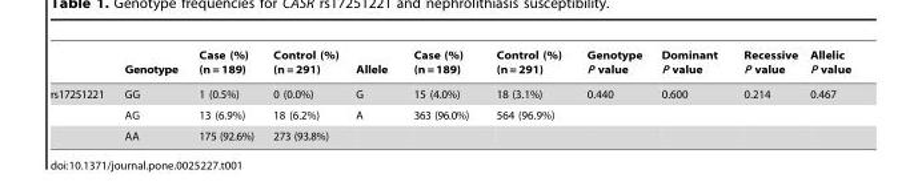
<table><thead><tr><td></td><td>Genotype</td><td>Case (%) (n = 189)</td><td>Control (%) (n = 291)</td><td>Allele</td><td>Case (%) (n = 189)</td><td>Control (%) (n = 291)</td><td>Genotype P value</td><td>Dominant P value</td><td>Recessive P value</td><td>Allelic P value</td></tr></thead><tbody><tr><td rowspan="3">rs17251221</td><td>GG</td><td>1 (0.5%)</td><td>0 (0.0%)</td><td>G</td><td>15 (4.0%)</td><td>18 (3.1%)</td><td>0.440</td><td>0.600</td><td>0.214</td><td>0.467</td></tr><tr><td>AG</td><td>13 (6.9%)</td><td>18 (6.2%)</td><td>A</td><td>363 (96.0%)</td><td>564 (96.9%)</td><td></td><td></td><td></td><td></td></tr><tr><td>AA</td><td>175 (92.6%)</td><td>273 (93.8%)</td><td></td><td></td><td></td><td></td><td></td><td></td><td></td></tr></tbody></table>